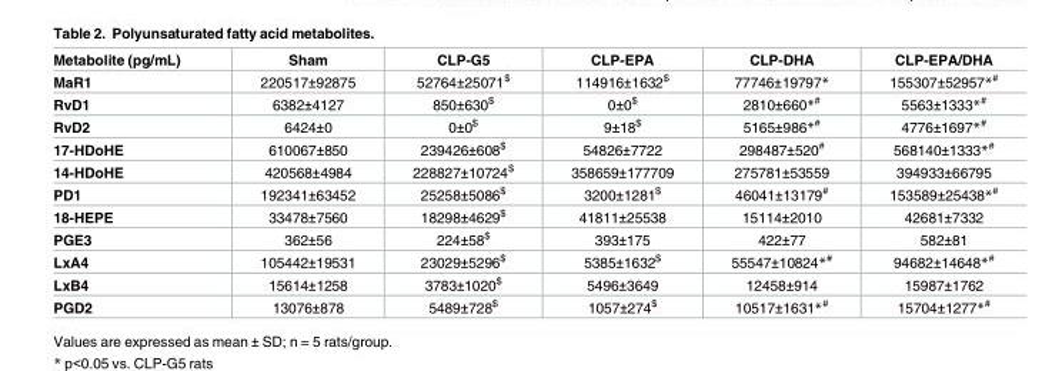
<table><thead><tr><td>Metabolite (pg/mL)</td><td>Sham</td><td>CLP-G5</td><td>CLP-EPA</td><td>CLP-DHA</td><td>CLP-EPA/DHA</td></tr></thead><tbody><tr><td>MaR1</td><td>220517±92875</td><td>52764±25071<sup>$</sup></td><td>114916±1632<sup>$</sup></td><td>77746±19797*</td><td>155307±52957*<sup>#</sup></td></tr><tr><td>RvD1</td><td>6382±4127</td><td>850±630<sup>$</sup></td><td>0±0<sup>$</sup></td><td>2810±660*<sup>#</sup></td><td>5563±1333*<sup>#</sup></td></tr><tr><td>RvD2</td><td>6424±0</td><td>0±0<sup>$</sup></td><td>9±18<sup>$</sup></td><td>5165±986*<sup>#</sup></td><td>4776±1697*<sup>#</sup></td></tr><tr><td>17-HDoHE</td><td>610067±850</td><td>239426±608<sup>$</sup></td><td>54826±7722</td><td>298487±520<sup>#</sup></td><td>568140±1333*<sup>#</sup></td></tr><tr><td>14-HDoHE</td><td>420568±4984</td><td>228827±10724<sup>$</sup></td><td>358659±177709</td><td>275781±53559</td><td>394933±66795</td></tr><tr><td>PD1</td><td>192341±63452</td><td>25258±5086<sup>$</sup></td><td>3200±1281<sup>$</sup></td><td>46041±13179<sup>#</sup></td><td>153589±25438*<sup>#</sup></td></tr><tr><td>18-HEPE</td><td>33478±7560</td><td>18298±4629<sup>$</sup></td><td>41811±25538</td><td>15114±2010</td><td>42681±7332</td></tr><tr><td>PGE3</td><td>362±56</td><td>224±58<sup>$</sup></td><td>393±175</td><td>422±77</td><td>582±81</td></tr><tr><td>LxA4</td><td>105442±19531</td><td>23029±5296<sup>$</sup></td><td>5385±1632<sup>$</sup></td><td>55547±10824*<sup>#</sup></td><td>94682±14648*<sup>#</sup></td></tr><tr><td>LxB4</td><td>15614±1258</td><td>3783±1020<sup>$</sup></td><td>5496±3649</td><td>12458±914</td><td>15987±1762</td></tr><tr><td>PGD2</td><td>13076±878</td><td>5489±728<sup>$</sup></td><td>1057±274<sup>$</sup></td><td>10517±1631*<sup>#</sup></td><td>15704±1277*<sup>#</sup></td></tr></tbody></table>